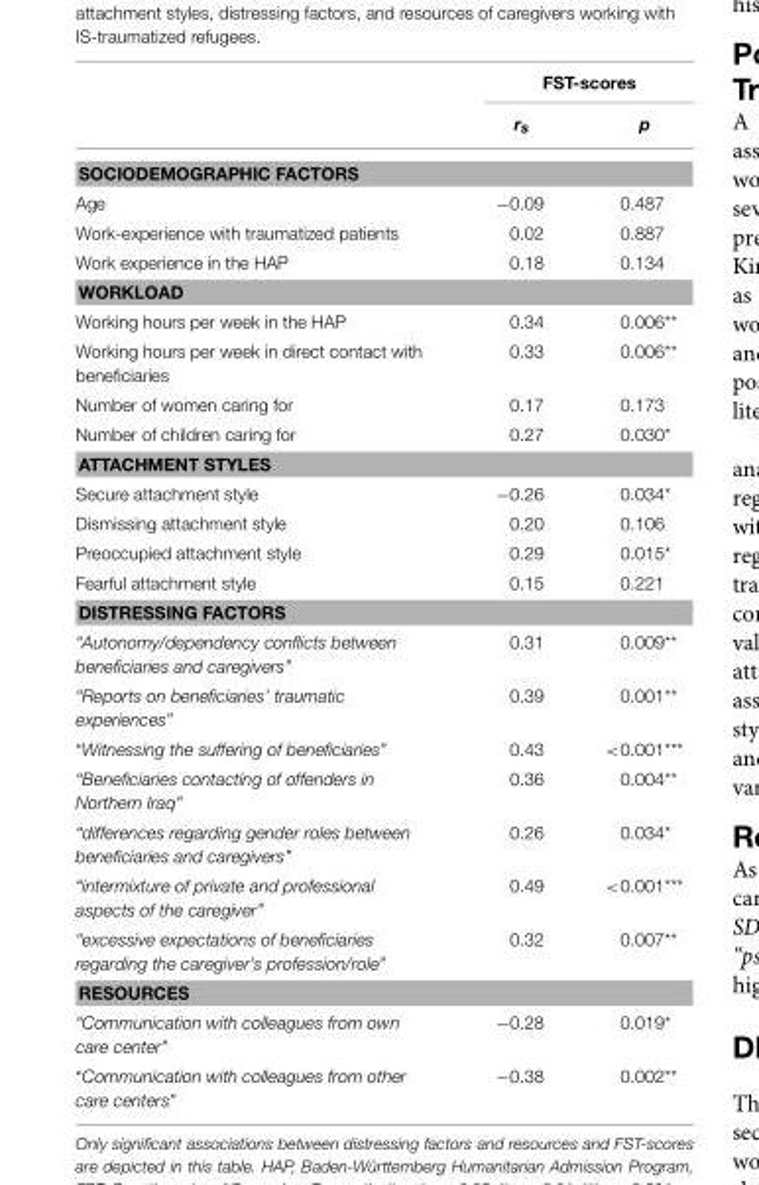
<table><thead><tr><td rowspan="2"></td><td colspan="2">FST-scores</td></tr><tr><td>rs</td><td>p</td></tr></thead><tbody><tr><td colspan="3">SOCIODEMOGRAPHIC FACTORS</td></tr><tr><td>Age</td><td>−0.09</td><td>0.487</td></tr><tr><td>Work-experience with traumatized patients</td><td>0.02</td><td>0.887</td></tr><tr><td>Work experience in the HAP</td><td>0.18</td><td>0.134</td></tr><tr><td colspan="3">WORKLOAD</td></tr><tr><td>Working hours per week in the HAP</td><td>0.34</td><td>0.006**</td></tr><tr><td>Working hours per week in direct contact with beneficiaries</td><td>0.33</td><td>0.006**</td></tr><tr><td>Number of women caring for</td><td>0.17</td><td>0.173</td></tr><tr><td>Number of children caring for</td><td>0.27</td><td>0.030*</td></tr><tr><td colspan="3">ATTACHMENT STYLES</td></tr><tr><td>Secure attachment style</td><td>−0.26</td><td>0.034*</td></tr><tr><td>Dismissing attachment style</td><td>0.20</td><td>0.106</td></tr><tr><td>Preoccupied attachment style</td><td>0.29</td><td>0.015*</td></tr><tr><td>Fearful attachment style</td><td>0.15</td><td>0.221</td></tr><tr><td colspan="3">DISTRESSING FACTORS</td></tr><tr><td>“Autonomy/dependency conflicts between beneficiaries and caregivers”</td><td>0.31</td><td>0.009**</td></tr><tr><td>“Reports on beneficiaries’ traumatic experiences”</td><td>0.39</td><td>0.001**</td></tr><tr><td>“Witnessing the suffering of beneficiaries”</td><td>0.43</td><td>&lt;0.001***</td></tr><tr><td>“Beneficiaries contacting of offenders in Northern Iraq”</td><td>0.36</td><td>0.004**</td></tr><tr><td>“differences regarding gender roles between beneficiaries and caregivers”</td><td>0.26</td><td>0.034*</td></tr><tr><td>“intermixture of private and professional aspects of the caregiver”</td><td>0.49</td><td>&lt;0.001***</td></tr><tr><td>“excessive expectations of beneficiaries regarding the caregiver’s profession/role”</td><td>0.32</td><td>0.007**</td></tr><tr><td colspan="3">RESOURCES</td></tr><tr><td>“Communication with colleagues from own care center”</td><td>−0.28</td><td>0.019*</td></tr><tr><td>“Communication with colleagues from other care centers”</td><td>−0.38</td><td>0.002**</td></tr></tbody></table>